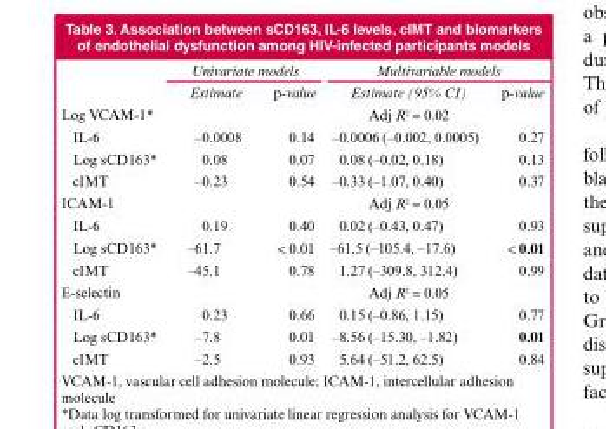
<table><thead><tr><td rowspan="2"></td><td colspan="2">Univariate models</td><td colspan="2">Multivariable models</td></tr><tr><td>Estimate</td><td>p-value</td><td>Estimate (95% CI)</td><td>p-value</td></tr></thead><tbody><tr><td>Log VCAM-1*</td><td></td><td></td><td>Adj R2 = 0.02</td><td></td></tr><tr><td>IL-6</td><td>–0.0008</td><td>0.14</td><td>–0.0006 (–0.002, 0.0005)</td><td>0.27</td></tr><tr><td>Log sCD163*</td><td>0.08</td><td>0.07</td><td>0.08 (–0.02, 0.18)</td><td>0.13</td></tr><tr><td>cIMT</td><td>–0.23</td><td>0.54</td><td>–0.33 (–1.07, 0.40)</td><td>0.37</td></tr><tr><td>ICAM-1</td><td></td><td></td><td>Adj R2 = 0.05</td><td></td></tr><tr><td>IL-6</td><td>0.19</td><td>0.40</td><td>0.02 (–0.43, 0.47)</td><td>0.93</td></tr><tr><td>Log sCD163*</td><td>–61.7</td><td>&lt; 0.01</td><td>–61.5 (–105.4, –17.6)</td><td>&lt; 0.01</td></tr><tr><td>cIMT</td><td>–45.1</td><td>0.78</td><td>1.27 (–309.8, 312.4)</td><td>0.99</td></tr><tr><td>E-selectin</td><td></td><td></td><td>Adj R2 = 0.05</td><td></td></tr><tr><td>IL-6</td><td>0.23</td><td>0.66</td><td>0.15 (–0.86, 1.15)</td><td>0.77</td></tr><tr><td>Log sCD163*</td><td>–7.8</td><td>0.01</td><td>–8.56 (–15.30, –1.82)</td><td>0.01</td></tr><tr><td>cIMT</td><td>–2.5</td><td>0.93</td><td>5.64 (–51.2, 62.5)</td><td>0.84</td></tr></tbody></table>